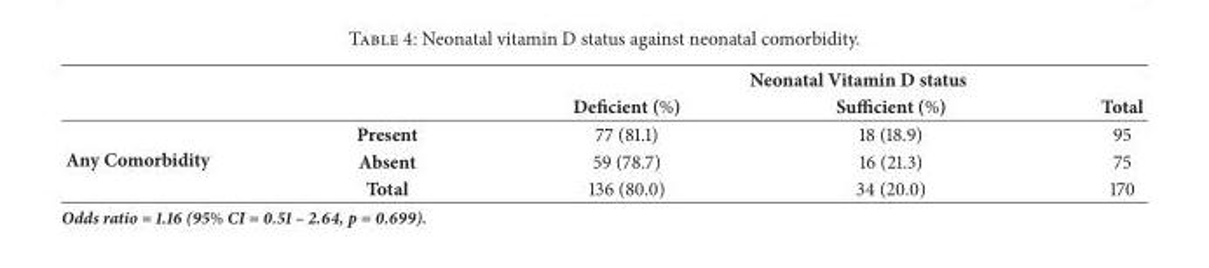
<table><thead><tr><td rowspan="2"></td><td rowspan="2"></td><td colspan="3">Neonatal Vitamin D status</td></tr><tr><td>Deficient (%)</td><td>Sufficient (%)</td><td>Total</td></tr></thead><tbody><tr><td rowspan="3">Any Comorbidity</td><td>Present</td><td>77 (81.1)</td><td>18 (18.9)</td><td>95</td></tr><tr><td>Absent</td><td>59 (78.7)</td><td>16 (21.3)</td><td>75</td></tr><tr><td>Total</td><td>136 (80.0)</td><td>34 (20.0)</td><td>170</td></tr></tbody></table>